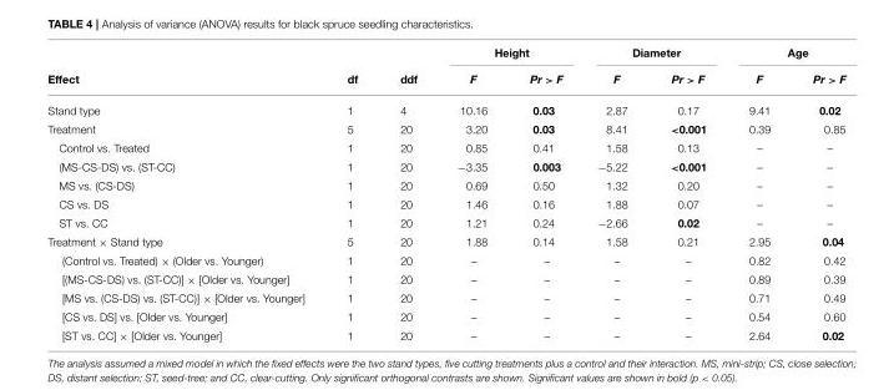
<table><thead><tr><td rowspan="2">Effect</td><td rowspan="2">df</td><td rowspan="2">ddf</td><td colspan="2">Height</td><td colspan="2">Diameter</td><td colspan="2">Age</td></tr><tr><td>F</td><td>Pr &gt; F</td><td>F</td><td>Pr &gt; F</td><td>F</td><td>Pr &gt; F</td></tr></thead><tbody><tr><td>Stand type</td><td>1</td><td>4</td><td>10.16</td><td>0.03</td><td>2.87</td><td>0.17</td><td>9.41</td><td>0.02</td></tr><tr><td>Treatment</td><td>5</td><td>20</td><td>3.20</td><td>0.03</td><td>8.41</td><td>&lt;0.001</td><td>0.39</td><td>0.85</td></tr><tr><td>Control vs. Treated</td><td>1</td><td>20</td><td>0.85</td><td>0.41</td><td>1.58</td><td>0.13</td><td>–</td><td>–</td></tr><tr><td>(MS-CS-DS) vs. (ST-CC)</td><td>1</td><td>20</td><td>−3.35</td><td>0.003</td><td>−5.22</td><td>&lt;0.001</td><td>–</td><td>–</td></tr><tr><td>MS vs. (CS-DS)</td><td>1</td><td>20</td><td>0.69</td><td>0.50</td><td>1.32</td><td>0.20</td><td>–</td><td>–</td></tr><tr><td>CS vs. DS</td><td>1</td><td>20</td><td>1.46</td><td>0.16</td><td>1.88</td><td>0.07</td><td>–</td><td>–</td></tr><tr><td>ST vs. CC</td><td>1</td><td>20</td><td>1.21</td><td>0.24</td><td>−2.66</td><td>0.02</td><td>–</td><td>–</td></tr><tr><td>Treatment × Stand type</td><td>5</td><td>20</td><td>1.88</td><td>0.14</td><td>1.58</td><td>0.21</td><td>2.95</td><td>0.04</td></tr><tr><td>(Control vs. Treated) × (Older vs. Younger)</td><td>1</td><td>20</td><td>–</td><td>–</td><td>–</td><td>–</td><td>0.82</td><td>0.42</td></tr><tr><td>[(MS-CS-DS) vs. (ST-CC)] × [Older vs. Younger]</td><td>1</td><td>20</td><td>–</td><td>–</td><td>–</td><td>–</td><td>0.89</td><td>0.39</td></tr><tr><td>[MS vs. (CS-DS) vs. (ST-CC)] × [Older vs. Younger]</td><td>1</td><td>20</td><td>–</td><td>–</td><td>–</td><td>–</td><td>0.71</td><td>0.49</td></tr><tr><td>[CS vs. DS] vs. [Older vs. Younger]</td><td>1</td><td>20</td><td>–</td><td>–</td><td>–</td><td>–</td><td>0.54</td><td>0.60</td></tr><tr><td>[ST vs. CC] × [Older vs. Younger]</td><td>1</td><td>20</td><td>–</td><td>–</td><td>–</td><td>–</td><td>2.64</td><td>0.02</td></tr></tbody></table>